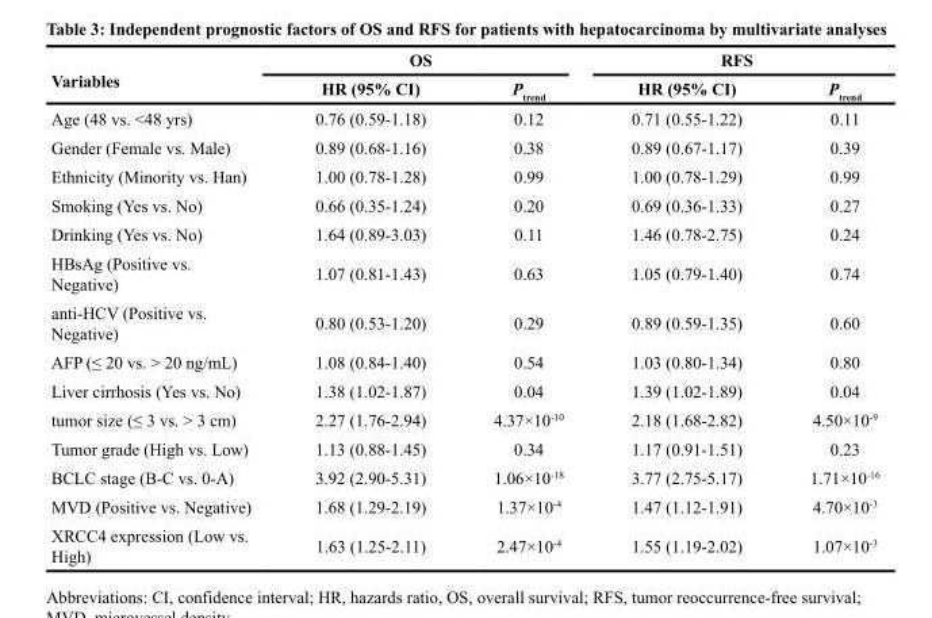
<table><thead><tr><td rowspan="2">Variables</td><td colspan="2">OS</td><td colspan="2">RFS</td></tr><tr><td>HR (95% CI)</td><td>P<sub>trend</sub></td><td>HR (95% CI)</td><td>P<sub>trend</sub></td></tr></thead><tbody><tr><td>Age (48 vs. &lt;48 yrs)</td><td>0.76 (0.59-1.18)</td><td>0.12</td><td>0.71 (0.55-1.22)</td><td>0.11</td></tr><tr><td>Gender (Female vs. Male)</td><td>0.89 (0.68-1.16)</td><td>0.38</td><td>0.89 (0.67-1.17)</td><td>0.39</td></tr><tr><td>Ethnicity (Minority vs. Han)</td><td>1.00 (0.78-1.28)</td><td>0.99</td><td>1.00 (0.78-1.29)</td><td>0.99</td></tr><tr><td>Smoking (Yes vs. No)</td><td>0.66 (0.35-1.24)</td><td>0.20</td><td>0.69 (0.36-1.33)</td><td>0.27</td></tr><tr><td>Drinking (Yes vs. No)</td><td>1.64 (0.89-3.03)</td><td>0.11</td><td>1.46 (0.78-2.75)</td><td>0.24</td></tr><tr><td>HBsAg (Positive vs. Negative)</td><td>1.07 (0.81-1.43)</td><td>0.63</td><td>1.05 (0.79-1.40)</td><td>0.74</td></tr><tr><td>anti-HCV (Positive vs. Negative)</td><td>0.80 (0.53-1.20)</td><td>0.29</td><td>0.89 (0.59-1.35)</td><td>0.60</td></tr><tr><td>AFP (≤ 20 vs. &gt; 20 ng/mL)</td><td>1.08 (0.84-1.40)</td><td>0.54</td><td>1.03 (0.80-1.34)</td><td>0.80</td></tr><tr><td>Liver cirrhosis (Yes vs. No)</td><td>1.38 (1.02-1.87)</td><td>0.04</td><td>1.39 (1.02-1.89)</td><td>0.04</td></tr><tr><td>tumor size (≤ 3 vs. &gt; 3 cm)</td><td>2.27 (1.76-2.94)</td><td>4.37×10<sup>-10</sup></td><td>2.18 (1.68-2.82)</td><td>4.50×10<sup>-9</sup></td></tr><tr><td>Tumor grade (High vs. Low)</td><td>1.13 (0.88-1.45)</td><td>0.34</td><td>1.17 (0.91-1.51)</td><td>0.23</td></tr><tr><td>BCLC stage (B-C vs. 0-A)</td><td>3.92 (2.90-5.31)</td><td>1.06×10<sup>-18</sup></td><td>3.77 (2.75-5.17)</td><td>1.71×10<sup>-16</sup></td></tr><tr><td>MVD (Positive vs. Negative)</td><td>1.68 (1.29-2.19)</td><td>1.37×10<sup>-4</sup></td><td>1.47 (1.12-1.91)</td><td>4.70×10<sup>-3</sup></td></tr><tr><td>XRCC4 expression (Low vs. High)</td><td>1.63 (1.25-2.11)</td><td>2.47×10<sup>-4</sup></td><td>1.55 (1.19-2.02)</td><td>1.07×10<sup>-3</sup></td></tr></tbody></table>